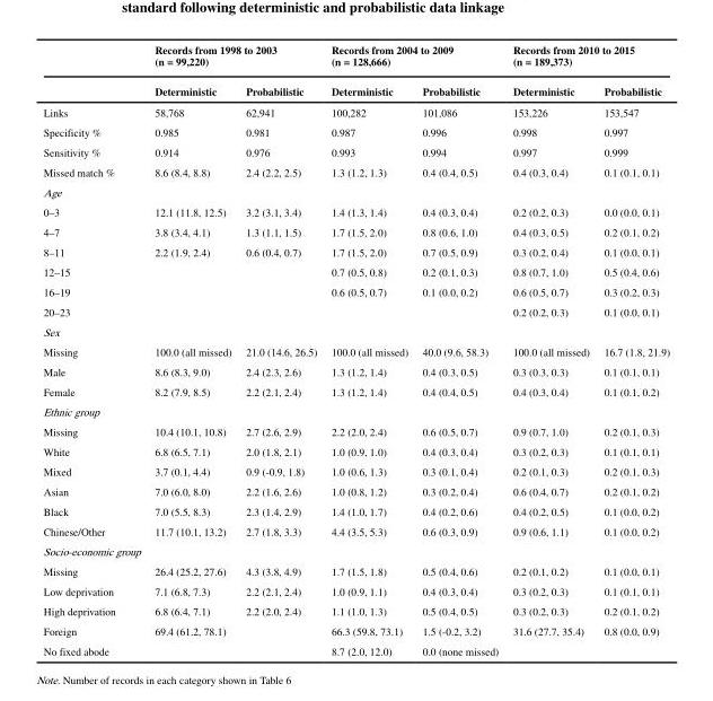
<table><thead><tr><td rowspan="2"></td><td colspan="2">Records from 1998 to 2003 (n = 99,220)</td><td colspan="2">Records from 2004 to 2009 (n = 128,666)</td><td colspan="2">Records from 2010 to 2015 (n = 189,373)</td></tr><tr><td>Deterministic</td><td>Probabilistic</td><td>Deterministic</td><td>Probabilistic</td><td>Deterministic</td><td>Probabilistic</td></tr></thead><tbody><tr><td>Links</td><td>58,768</td><td>62,941</td><td>100,282</td><td>101,086</td><td>153,226</td><td>153,547</td></tr><tr><td>Specificity %</td><td>0.985</td><td>0.981</td><td>0.987</td><td>0.996</td><td>0.998</td><td>0.997</td></tr><tr><td>Sensitivity %</td><td>0.914</td><td>0.976</td><td>0.993</td><td>0.994</td><td>0.997</td><td>0.999</td></tr><tr><td>Missed match %</td><td>8.6 (8.4, 8.8)</td><td>2.4 (2.2, 2.5)</td><td>1.3 (1.2, 1.3)</td><td>0.4 (0.4, 0.5)</td><td>0.4 (0.3, 0.4)</td><td>0.1 (0.1, 0.1)</td></tr><tr><td colspan="7">Age</td></tr><tr><td>0–3</td><td>12.1 (11.8, 12.5)</td><td>3.2 (3.1, 3.4)</td><td>1.4 (1.3, 1.4)</td><td>0.4 (0.3, 0.4)</td><td>0.2 (0.2, 0.3)</td><td>0.0 (0.0, 0.1)</td></tr><tr><td>4–7</td><td>3.8 (3.4, 4.1)</td><td>1.3 (1.1, 1.5)</td><td>1.7 (1.5, 2.0)</td><td>0.8 (0.6, 1.0)</td><td>0.4 (0.3, 0.5)</td><td>0.2 (0.1, 0.2)</td></tr><tr><td>8–11</td><td>2.2 (1.9, 2.4)</td><td>0.6 (0.4, 0.7)</td><td>1.7 (1.5, 2.0)</td><td>0.7 (0.5, 0.9)</td><td>0.3 (0.2, 0.4)</td><td>0.1 (0.0, 0.1)</td></tr><tr><td>12–15</td><td></td><td></td><td>0.7 (0.5, 0.8)</td><td>0.2 (0.1, 0.3)</td><td>0.8 (0.7, 1.0)</td><td>0.5 (0.4, 0.6)</td></tr><tr><td>16–19</td><td></td><td></td><td>0.6 (0.5, 0.7)</td><td>0.1 (0.0, 0.2)</td><td>0.6 (0.5, 0.7)</td><td>0.3 (0.2, 0.3)</td></tr><tr><td>20–23</td><td></td><td></td><td></td><td></td><td>0.2 (0.2, 0.3)</td><td>0.1 (0.0, 0.1)</td></tr><tr><td colspan="7">Sex</td></tr><tr><td>Missing</td><td>100.0 (all missed)</td><td>21.0 (14.6, 26.5)</td><td>100.0 (all missed)</td><td>40.0 (9.6, 58.3)</td><td>100.0 (all missed)</td><td>16.7 (1.8, 21.9)</td></tr><tr><td>Male</td><td>8.6 (8.3, 9.0)</td><td>2.4 (2.3, 2.6)</td><td>1.3 (1.2, 1.4)</td><td>0.4 (0.3, 0.5)</td><td>0.3 (0.3, 0.3)</td><td>0.1 (0.1, 0.1)</td></tr><tr><td>Female</td><td>8.2 (7.9, 8.5)</td><td>2.2 (2.1, 2.4)</td><td>1.3 (1.2, 1.4)</td><td>0.4 (0.4, 0.5)</td><td>0.4 (0.3, 0.4)</td><td>0.1 (0.1, 0.2)</td></tr><tr><td colspan="7">Ethnic group</td></tr><tr><td>Missing</td><td>10.4 (10.1, 10.8)</td><td>2.7 (2.6, 2.9)</td><td>2.2 (2.0, 2.4)</td><td>0.6 (0.5, 0.7)</td><td>0.9 (0.7, 1.0)</td><td>0.2 (0.1, 0.3)</td></tr><tr><td>White</td><td>6.8 (6.5, 7.1)</td><td>2.0 (1.8, 2.1)</td><td>1.0 (0.9, 1.0)</td><td>0.4 (0.3, 0.4)</td><td>0.3 (0.2, 0.3)</td><td>0.1 (0.1, 0.1)</td></tr><tr><td>Mixed</td><td>3.7 (0.1, 4.4)</td><td>0.9 (-0.9, 1.8)</td><td>1.0 (0.6, 1.3)</td><td>0.3 (0.1, 0.4)</td><td>0.2 (0.1, 0.3)</td><td>0.2 (0.1, 0.3)</td></tr><tr><td>Asian</td><td>7.0 (6.0, 8.0)</td><td>2.2 (1.6, 2.6)</td><td>1.0 (0.8, 1.2)</td><td>0.3 (0.2, 0.4)</td><td>0.6 (0.4, 0.7)</td><td>0.2 (0.1, 0.2)</td></tr><tr><td>Black</td><td>7.0 (5.5, 8.3)</td><td>2.3 (1.4, 2.9)</td><td>1.4 (1.0, 1.7)</td><td>0.4 (0.2, 0.6)</td><td>0.4 (0.2, 0.5)</td><td>0.1 (0.0, 0.2)</td></tr><tr><td>Chinese/Other</td><td>11.7 (10.1, 13.2)</td><td>2.7 (1.8, 3.3)</td><td>4.4 (3.5, 5.3)</td><td>0.6 (0.3, 0.9)</td><td>0.9 (0.6, 1.1)</td><td>0.1 (0.0, 0.2)</td></tr><tr><td colspan="7">Socio-economic group</td></tr><tr><td>Missing</td><td>26.4 (25.2, 27.6)</td><td>4.3 (3.8, 4.9)</td><td>1.7 (1.5, 1.8)</td><td>0.5 (0.4, 0.6)</td><td>0.2 (0.1, 0.2)</td><td>0.1 (0.0, 0.1)</td></tr><tr><td>Low deprivation</td><td>7.1 (6.8, 7.3)</td><td>2.2 (2.1, 2.4)</td><td>1.0 (0.9, 1.1)</td><td>0.4 (0.3, 0.4)</td><td>0.3 (0.2, 0.3)</td><td>0.1 (0.1, 0.1)</td></tr><tr><td>High deprivation</td><td>6.8 (6.4, 7.1)</td><td>2.2 (2.0, 2.4)</td><td>1.1 (1.0, 1.3)</td><td>0.5 (0.4, 0.5)</td><td>0.3 (0.2, 0.3)</td><td>0.2 (0.1, 0.2)</td></tr><tr><td>Foreign</td><td>69.4 (61.2, 78.1)</td><td></td><td>66.3 (59.8, 73.1)</td><td>1.5 (-0.2, 3.2)</td><td>31.6 (27.7, 35.4)</td><td>0.8 (0.0, 0.9)</td></tr><tr><td>No fixed abode</td><td></td><td></td><td>8.7 (2.0, 12.0)</td><td>0.0 (none missed)</td><td></td><td></td></tr></tbody></table>